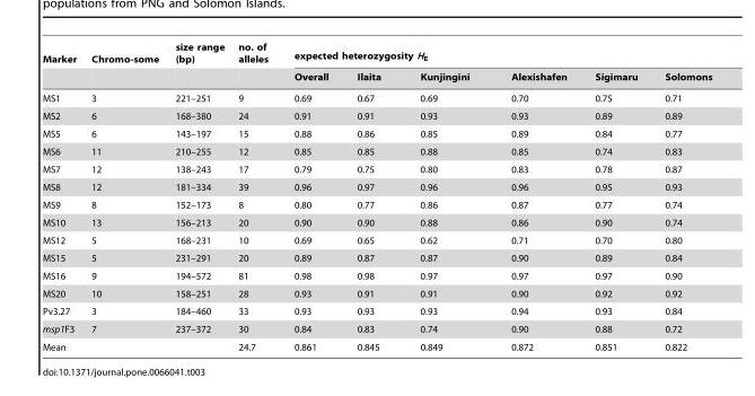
<table><thead><tr><td rowspan="2">Marker</td><td rowspan="2">Chromo-some</td><td rowspan="2">size range (bp)</td><td rowspan="2">no. of alleles</td><td colspan="6">expected heterozygosity H<sub>E</sub></td></tr><tr><td>Overall</td><td>Ilaita</td><td>Kunjingini</td><td>Alexishafen</td><td>Sigimaru</td><td>Solomons</td></tr></thead><tbody><tr><td>MS1</td><td>3</td><td>221–251</td><td>9</td><td>0.69</td><td>0.67</td><td>0.69</td><td>0.70</td><td>0.75</td><td>0.71</td></tr><tr><td>MS2</td><td>6</td><td>168–380</td><td>24</td><td>0.91</td><td>0.91</td><td>0.93</td><td>0.93</td><td>0.89</td><td>0.89</td></tr><tr><td>MS5</td><td>6</td><td>143–197</td><td>15</td><td>0.88</td><td>0.86</td><td>0.85</td><td>0.89</td><td>0.84</td><td>0.77</td></tr><tr><td>MS6</td><td>11</td><td>210–255</td><td>12</td><td>0.85</td><td>0.85</td><td>0.88</td><td>0.85</td><td>0.74</td><td>0.83</td></tr><tr><td>MS7</td><td>12</td><td>138–243</td><td>17</td><td>0.79</td><td>0.75</td><td>0.80</td><td>0.83</td><td>0.78</td><td>0.87</td></tr><tr><td>MS8</td><td>12</td><td>181–334</td><td>39</td><td>0.96</td><td>0.97</td><td>0.96</td><td>0.96</td><td>0.95</td><td>0.93</td></tr><tr><td>MS9</td><td>8</td><td>152–173</td><td>8</td><td>0.80</td><td>0.77</td><td>0.86</td><td>0.87</td><td>0.77</td><td>0.74</td></tr><tr><td>MS10</td><td>13</td><td>156–213</td><td>20</td><td>0.90</td><td>0.90</td><td>0.88</td><td>0.86</td><td>0.90</td><td>0.74</td></tr><tr><td>MS12</td><td>5</td><td>168–231</td><td>10</td><td>0.69</td><td>0.65</td><td>0.62</td><td>0.71</td><td>0.70</td><td>0.80</td></tr><tr><td>MS15</td><td>5</td><td>231–291</td><td>20</td><td>0.89</td><td>0.87</td><td>0.87</td><td>0.90</td><td>0.89</td><td>0.84</td></tr><tr><td>MS16</td><td>9</td><td>194–572</td><td>81</td><td>0.98</td><td>0.98</td><td>0.97</td><td>0.97</td><td>0.97</td><td>0.90</td></tr><tr><td>MS20</td><td>10</td><td>158–251</td><td>28</td><td>0.93</td><td>0.91</td><td>0.91</td><td>0.90</td><td>0.92</td><td>0.92</td></tr><tr><td>Pv3.27</td><td>3</td><td>184–460</td><td>33</td><td>0.93</td><td>0.93</td><td>0.93</td><td>0.94</td><td>0.93</td><td>0.84</td></tr><tr><td>msp1F3</td><td>7</td><td>237–372</td><td>30</td><td>0.84</td><td>0.83</td><td>0.74</td><td>0.90</td><td>0.88</td><td>0.72</td></tr><tr><td>Mean</td><td></td><td></td><td>24.7</td><td>0.861</td><td>0.845</td><td>0.849</td><td>0.872</td><td>0.851</td><td>0.822</td></tr></tbody></table>